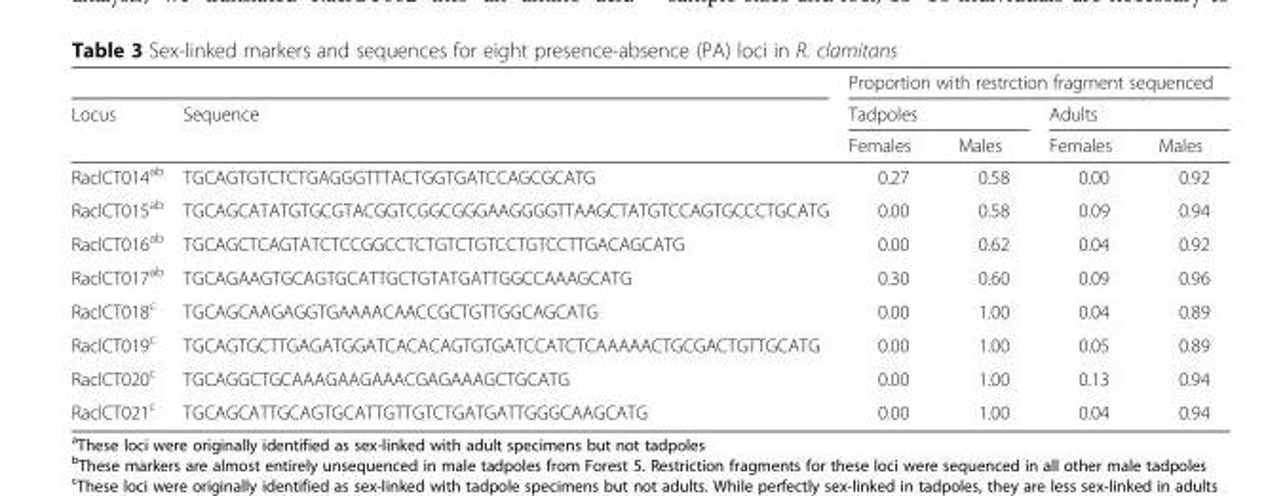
<table><thead><tr><td rowspan="3">Locus</td><td rowspan="3">Sequence</td><td colspan="4">Proportion with restrction fragment sequenced</td></tr><tr><td colspan="2">Tadpoles</td><td colspan="2">Adults</td></tr><tr><td>Females</td><td>Males</td><td>Females</td><td>Males</td></tr></thead><tbody><tr><td>RaclCT014<sup>ab</sup></td><td>TGCAGTGTCTCTGAGGGTTTACTGGTGATCCAGCGCATG</td><td>0.27</td><td>0.58</td><td>0.00</td><td>0.92</td></tr><tr><td>RaclCT015<sup>ab</sup></td><td>TGCAGCATATGTGCGTACGGTCGGCGGGAAGGGGTTAAGCTATGTCCAGTGCCCTGCATG</td><td>0.00</td><td>0.58</td><td>0.09</td><td>0.94</td></tr><tr><td>RaclCT016<sup>ab</sup></td><td>TGCAGCTCAGTATCTCCGGCCTCTGTCTGTCCTGTCCTTGACAGCATG</td><td>0.00</td><td>0.62</td><td>0.04</td><td>0.92</td></tr><tr><td>RaclCT017<sup>ab</sup></td><td>TGCAGAAGTGCAGTGCATTGCTGTATGATTGGCCAAAGCATG</td><td>0.30</td><td>0.60</td><td>0.09</td><td>0.96</td></tr><tr><td>RaclCT018<sup>c</sup></td><td>TGCAGCAAGAGGTGAAAACAACCGCTGTTGGCAGCATG</td><td>0.00</td><td>1.00</td><td>0.04</td><td>0.89</td></tr><tr><td>RaclCT019<sup>c</sup></td><td>TGCAGTGCTTGAGATGGATCACACAGTGTGATCCATCTCAAAAACTGCGACTGTTGCATG</td><td>0.00</td><td>1.00</td><td>0.05</td><td>0.89</td></tr><tr><td>RaclCT020<sup>c</sup></td><td>TGCAGGCTGCAAAGAAGAAACGAGAAAGCTGCATG</td><td>0.00</td><td>1.00</td><td>0.13</td><td>0.94</td></tr><tr><td>RaclCT021<sup>c</sup></td><td>TGCAGCATTGCAGTGCATTGTTGTCTGATGATTGGGCAAGCATG</td><td>0.00</td><td>1.00</td><td>0.04</td><td>0.94</td></tr></tbody></table>